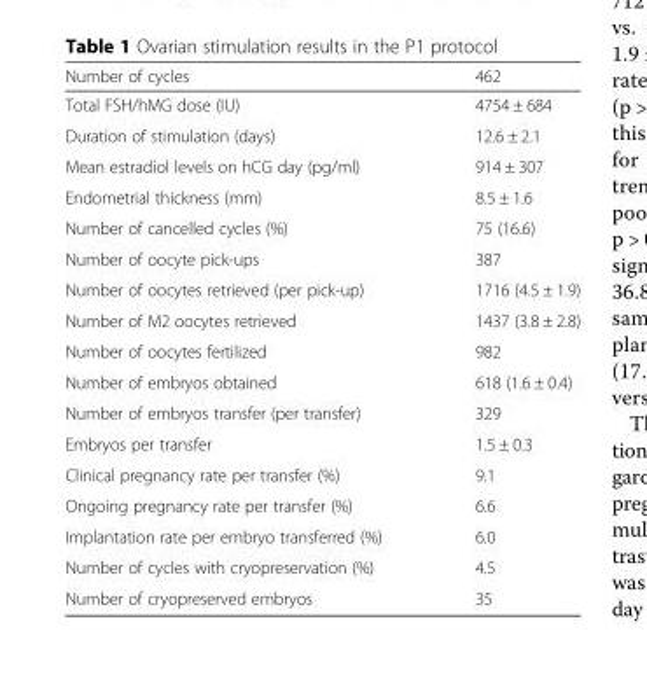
<table><thead><tr><td>Number of cycles</td><td>462</td></tr></thead><tbody><tr><td>Total FSH/hMG dose (IU)</td><td>4754 ± 684</td></tr><tr><td>Duration of stimulation (days)</td><td>12.6 ± 2.1</td></tr><tr><td>Mean estradiol levels on hCG day (pg/ml)</td><td>914 ± 307</td></tr><tr><td>Endometrial thickness (mm)</td><td>8.5 ± 1.6</td></tr><tr><td>Number of cancelled cycles (%)</td><td>75 (16.6)</td></tr><tr><td>Number of oocyte pick-ups</td><td>387</td></tr><tr><td>Number of oocytes retrieved (per pick-up)</td><td>1716 (4.5 ± 1.9)</td></tr><tr><td>Number of M2 oocytes retrieved</td><td>1437 (3.8 ± 2.8)</td></tr><tr><td>Number of oocytes fertilized</td><td>982</td></tr><tr><td>Number of embryos obtained</td><td>618 (1.6 ± 0.4)</td></tr><tr><td>Number of embryos transfer (per transfer)</td><td>329</td></tr><tr><td>Embryos per transfer</td><td>1.5 ± 0.3</td></tr><tr><td>Clinical pregnancy rate per transfer (%)</td><td>9.1</td></tr><tr><td>Ongoing pregnancy rate per transfer (%)</td><td>6.6</td></tr><tr><td>Implantation rate per embryo transferred (%)</td><td>6.0</td></tr><tr><td>Number of cycles with cryopreservation (%)</td><td>4.5</td></tr><tr><td>Number of cryopreserved embryos</td><td>35</td></tr></tbody></table>